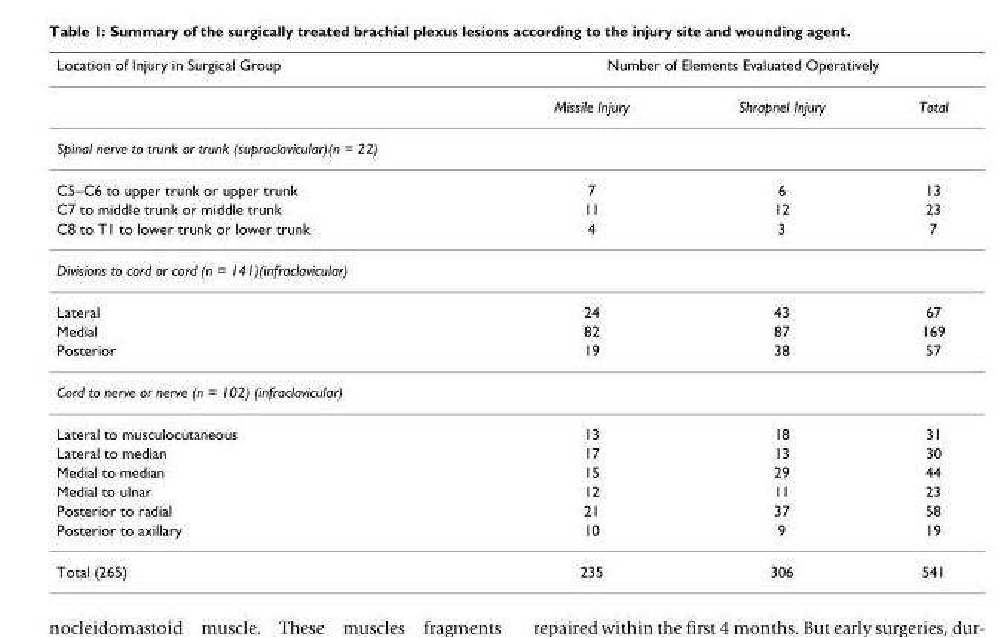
<table><thead><tr><td rowspan="2">Location of Injury in Surgical Group</td><td colspan="3">Number of Elements Evaluated Operatively</td></tr><tr><td>Missile Injury</td><td>Shrapnel Injury</td><td>Total</td></tr></thead><tbody><tr><td colspan="4">Spinal nerve to trunk or trunk (supraclavicular)(n = 22)</td></tr><tr><td>C5–C6 to upper trunk or upper trunk</td><td>7</td><td>6</td><td>13</td></tr><tr><td>C7 to middle trunk or middle trunk</td><td>11</td><td>12</td><td>23</td></tr><tr><td>C8 to T1 to lower trunk or lower trunk</td><td>4</td><td>3</td><td>7</td></tr><tr><td colspan="4">Divisions to cord or cord (n = 141)(infraclavicular)</td></tr><tr><td>Lateral</td><td>24</td><td>43</td><td>67</td></tr><tr><td>Medial</td><td>82</td><td>87</td><td>169</td></tr><tr><td>Posterior</td><td>19</td><td>38</td><td>57</td></tr><tr><td colspan="4">Cord to nerve or nerve (n = 102) (infraclavicular)</td></tr><tr><td>Lateral to musculocutaneous</td><td>13</td><td>18</td><td>31</td></tr><tr><td>Lateral to median</td><td>17</td><td>13</td><td>30</td></tr><tr><td>Medial to median</td><td>15</td><td>29</td><td>44</td></tr><tr><td>Medial to ulnar</td><td>12</td><td>11</td><td>23</td></tr><tr><td>Posterior to radial</td><td>21</td><td>37</td><td>58</td></tr><tr><td>Posterior to axillary</td><td>10</td><td>9</td><td>19</td></tr><tr><td>Total (265)</td><td>235</td><td>306</td><td>541</td></tr></tbody></table>